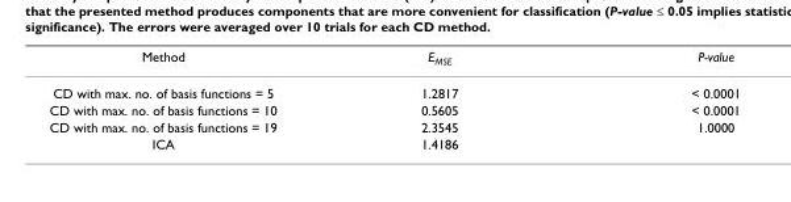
<table><thead><tr><td>Method</td><td>EMSE</td><td>P-value</td></tr></thead><tbody><tr><td>CD with max. no. of basis functions = 5</td><td>1.2817</td><td>&lt; 0.0001</td></tr><tr><td>CD with max. no. of basis functions = 10</td><td>0.5605</td><td>&lt; 0.0001</td></tr><tr><td>CD with max. no. of basis functions = 19</td><td>2.3545</td><td>1.0000</td></tr><tr><td>ICA</td><td>1.4186</td><td></td></tr></tbody></table>